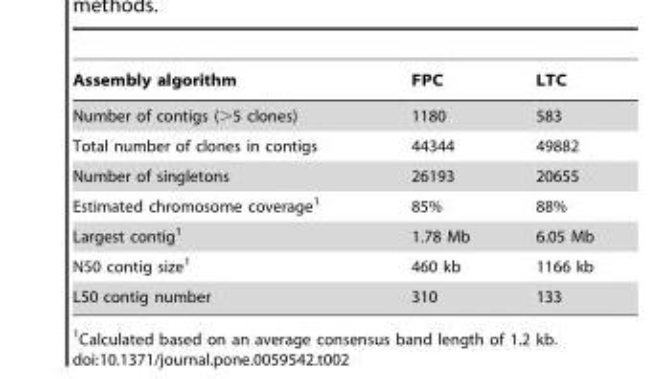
<table><thead><tr><td>Assembly algorithm</td><td>FPC</td><td>LTC</td></tr></thead><tbody><tr><td>Number of contigs (&gt;5 clones)</td><td>1180</td><td>583</td></tr><tr><td>Total number of clones in contigs</td><td>44344</td><td>49882</td></tr><tr><td>Number of singletons</td><td>26193</td><td>20655</td></tr><tr><td>Estimated chromosome coverage<sup>1</sup></td><td>85%</td><td>88%</td></tr><tr><td>Largest contig<sup>1</sup></td><td>1.78 Mb</td><td>6.05 Mb</td></tr><tr><td>N50 contig size<sup>1</sup></td><td>460 kb</td><td>1166 kb</td></tr><tr><td>L50 contig number</td><td>310</td><td>133</td></tr></tbody></table>